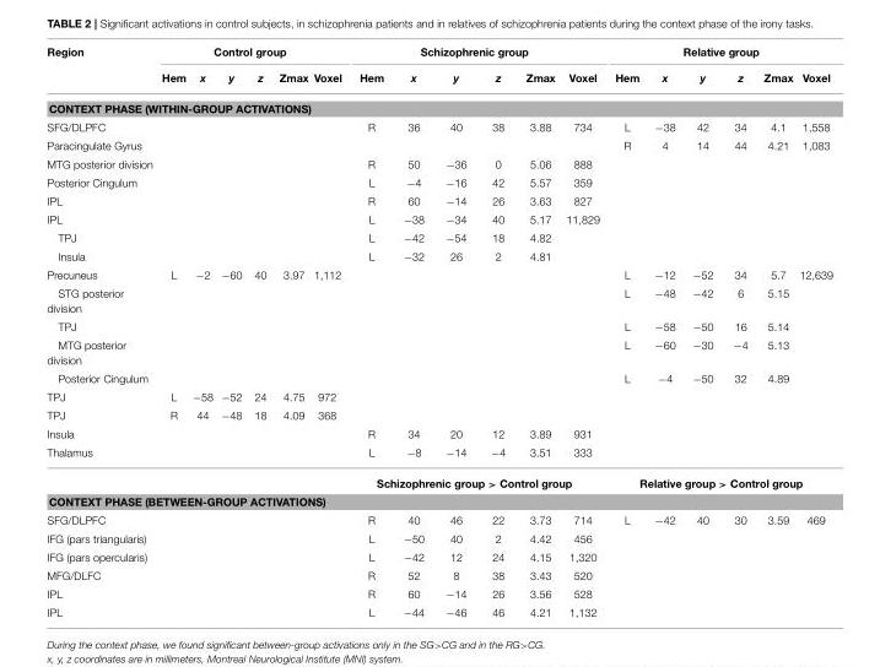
<table><thead><tr><td rowspan="2">Region</td><td colspan="6">Control group</td><td colspan="6">Schizophrenic group</td><td colspan="6">Relative group</td></tr><tr><td>Hem</td><td>x</td><td>y</td><td>z</td><td>Zmax</td><td>Voxel</td><td>Hem</td><td>x</td><td>y</td><td>z</td><td>Zmax</td><td>Voxel</td><td>Hem</td><td>x</td><td>y</td><td>z</td><td>Zmax</td><td>Voxel</td></tr></thead><tbody><tr><td colspan="19">CONTEXT PHASE (WITHIN-GROUP ACTIVATIONS)</td></tr><tr><td>SFG/DLPFC</td><td></td><td></td><td></td><td></td><td></td><td></td><td>R</td><td>36</td><td>40</td><td>38</td><td>3.88</td><td>734</td><td>L</td><td>−38</td><td>42</td><td>34</td><td>4.1</td><td>1,558</td></tr><tr><td>Paracingulate Gyrus</td><td></td><td></td><td></td><td></td><td></td><td></td><td></td><td></td><td></td><td></td><td></td><td></td><td>R</td><td>4</td><td>14</td><td>44</td><td>4.21</td><td>1,083</td></tr><tr><td>MTG posterior division</td><td></td><td></td><td></td><td></td><td></td><td></td><td>R</td><td>50</td><td>−36</td><td>0</td><td>5.06</td><td>888</td><td></td><td></td><td></td><td></td><td></td><td></td></tr><tr><td>Posterior Cingulum</td><td></td><td></td><td></td><td></td><td></td><td></td><td>L</td><td>−4</td><td>−16</td><td>42</td><td>5.57</td><td>359</td><td></td><td></td><td></td><td></td><td></td><td></td></tr><tr><td>IPL</td><td></td><td></td><td></td><td></td><td></td><td></td><td>R</td><td>60</td><td>−14</td><td>26</td><td>3.63</td><td>827</td><td></td><td></td><td></td><td></td><td></td><td></td></tr><tr><td>IPL</td><td></td><td></td><td></td><td></td><td></td><td></td><td>L</td><td>−38</td><td>−34</td><td>40</td><td>5.17</td><td>11,829</td><td></td><td></td><td></td><td></td><td></td><td></td></tr><tr><td>TPJ</td><td></td><td></td><td></td><td></td><td></td><td></td><td>L</td><td>−42</td><td>−54</td><td>18</td><td>4.82</td><td></td><td></td><td></td><td></td><td></td><td></td><td></td></tr><tr><td>Insula</td><td></td><td></td><td></td><td></td><td></td><td></td><td>L</td><td>−32</td><td>26</td><td>2</td><td>4.81</td><td></td><td></td><td></td><td></td><td></td><td></td><td></td></tr><tr><td>Precuneus</td><td>L</td><td>−2</td><td>−60</td><td>40</td><td>3.97</td><td>1,112</td><td></td><td></td><td></td><td></td><td></td><td></td><td>L</td><td>−12</td><td>−52</td><td>34</td><td>5.7</td><td>12,639</td></tr><tr><td>STG posterior division</td><td></td><td></td><td></td><td></td><td></td><td></td><td></td><td></td><td></td><td></td><td></td><td></td><td>L</td><td>−48</td><td>−42</td><td>6</td><td>5.15</td><td></td></tr><tr><td>TPJ</td><td></td><td></td><td></td><td></td><td></td><td></td><td></td><td></td><td></td><td></td><td></td><td></td><td>L</td><td>−58</td><td>−50</td><td>16</td><td>5.14</td><td></td></tr><tr><td>MTG posterior division</td><td></td><td></td><td></td><td></td><td></td><td></td><td></td><td></td><td></td><td></td><td></td><td></td><td>L</td><td>−60</td><td>−30</td><td>−4</td><td>5.13</td><td></td></tr><tr><td>Posterior Cingulum</td><td></td><td></td><td></td><td></td><td></td><td></td><td></td><td></td><td></td><td></td><td></td><td></td><td>L</td><td>−4</td><td>−50</td><td>32</td><td>4.89</td><td></td></tr><tr><td>TPJ</td><td>L</td><td>−58</td><td>−52</td><td>24</td><td>4.75</td><td>972</td><td></td><td></td><td></td><td></td><td></td><td></td><td></td><td></td><td></td><td></td><td></td><td></td></tr><tr><td>TPJ</td><td>R</td><td>44</td><td>−48</td><td>18</td><td>4.09</td><td>368</td><td></td><td></td><td></td><td></td><td></td><td></td><td></td><td></td><td></td><td></td><td></td><td></td></tr><tr><td>Insula</td><td></td><td></td><td></td><td></td><td></td><td></td><td>R</td><td>34</td><td>20</td><td>12</td><td>3.89</td><td>931</td><td></td><td></td><td></td><td></td><td></td><td></td></tr><tr><td rowspan="2">Thalamus</td><td></td><td></td><td></td><td></td><td></td><td></td><td>L</td><td>−8</td><td>−14</td><td>−4</td><td>3.51</td><td>333</td><td></td><td></td><td></td><td></td><td></td><td></td></tr><tr><td></td><td></td><td></td><td></td><td></td><td></td><td colspan="6">Schizophrenic group &gt; Control group</td><td colspan="6">Relative group &gt; Control group</td></tr><tr><td colspan="19">CONTEXT PHASE (BETWEEN-GROUP ACTIVATIONS)</td></tr><tr><td>SFG/DLPFC</td><td></td><td></td><td></td><td></td><td></td><td></td><td>R</td><td>40</td><td>46</td><td>22</td><td>3.73</td><td>714</td><td>L</td><td>−42</td><td>40</td><td>30</td><td>3.59</td><td>469</td></tr><tr><td>IFG (pars triangularis)</td><td></td><td></td><td></td><td></td><td></td><td></td><td>L</td><td>−50</td><td>40</td><td>2</td><td>4.42</td><td>456</td><td></td><td></td><td></td><td></td><td></td><td></td></tr><tr><td>IFG (pars opercularis)</td><td></td><td></td><td></td><td></td><td></td><td></td><td>L</td><td>−42</td><td>12</td><td>24</td><td>4.15</td><td>1,320</td><td></td><td></td><td></td><td></td><td></td><td></td></tr><tr><td>MFG/DLFC</td><td></td><td></td><td></td><td></td><td></td><td></td><td>R</td><td>52</td><td>8</td><td>38</td><td>3.43</td><td>520</td><td></td><td></td><td></td><td></td><td></td><td></td></tr><tr><td>IPL</td><td></td><td></td><td></td><td></td><td></td><td></td><td>R</td><td>60</td><td>−14</td><td>26</td><td>3.56</td><td>528</td><td></td><td></td><td></td><td></td><td></td><td></td></tr><tr><td>IPL</td><td></td><td></td><td></td><td></td><td></td><td></td><td>L</td><td>−44</td><td>−46</td><td>46</td><td>4.21</td><td>1,132</td><td></td><td></td><td></td><td></td><td></td><td></td></tr></tbody></table>